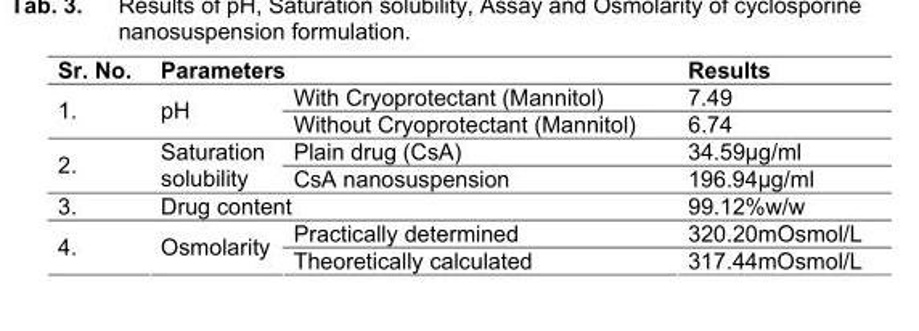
<table><thead><tr><td>Sr. No.</td><td>Parameters</td><td></td><td>Results</td></tr></thead><tbody><tr><td rowspan="2">1.</td><td rowspan="2">pH</td><td>With Cryoprotectant (Mannitol)</td><td>7.49</td></tr><tr><td>Without Cryoprotectant (Mannitol)</td><td>6.74</td></tr><tr><td rowspan="2">2.</td><td rowspan="2">Saturation solubility</td><td>Plain drug (CsA)</td><td>34.59µg/ml</td></tr><tr><td>CsA nanosuspension</td><td>196.94µg/ml</td></tr><tr><td>3.</td><td>Drug content</td><td></td><td>99.12%w/w</td></tr><tr><td rowspan="2">4.</td><td rowspan="2">Osmolarity</td><td>Practically determined</td><td>320.20mOsmol/L</td></tr><tr><td>Theoretically calculated</td><td>317.44mOsmol/L</td></tr></tbody></table>